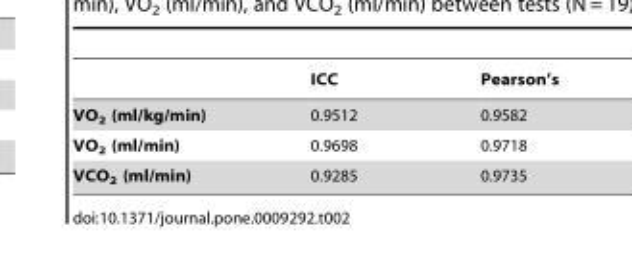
<table><thead><tr><td></td><td>ICC</td><td>Pearson’s</td></tr></thead><tbody><tr><td>VO<sub>2</sub> (ml/kg/min)</td><td>0.9512</td><td>0.9582</td></tr><tr><td>VO<sub>2</sub> (ml/min)</td><td>0.9698</td><td>0.9718</td></tr><tr><td>VCO<sub>2</sub> (ml/min)</td><td>0.9285</td><td>0.9735</td></tr></tbody></table>